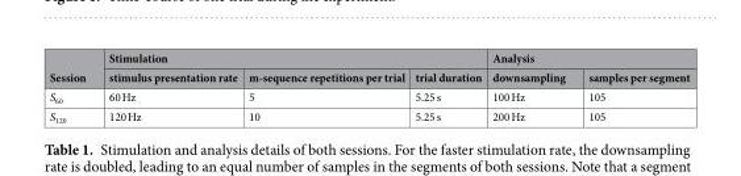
<table><thead><tr><td rowspan="2">Session</td><td colspan="3">Stimulation</td><td colspan="2">Analysis</td></tr><tr><td>stimulus presentation rate</td><td>m-sequence repetitions per trial</td><td>trial duration</td><td>downsampling</td><td>samples per segment</td></tr></thead><tbody><tr><td>S<sub>60</sub></td><td>60 Hz</td><td>5</td><td>5.25 s</td><td>100 Hz</td><td>105</td></tr><tr><td>S<sub>120</sub></td><td>120 Hz</td><td>10</td><td>5.25 s</td><td>200 Hz</td><td>105</td></tr></tbody></table>